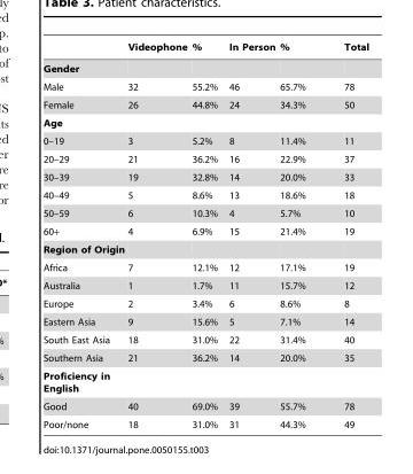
<table><thead><tr><td></td><td>Videophone</td><td>%</td><td>In Person</td><td>%</td><td>Total</td></tr></thead><tbody><tr><td colspan="6">Gender</td></tr><tr><td>Male</td><td>32</td><td>55.2%</td><td>46</td><td>65.7%</td><td>78</td></tr><tr><td>Female</td><td>26</td><td>44.8%</td><td>24</td><td>34.3%</td><td>50</td></tr><tr><td colspan="6">Age</td></tr><tr><td>0–19</td><td>3</td><td>5.2%</td><td>8</td><td>11.4%</td><td>11</td></tr><tr><td>20–29</td><td>21</td><td>36.2%</td><td>16</td><td>22.9%</td><td>37</td></tr><tr><td>30–39</td><td>19</td><td>32.8%</td><td>14</td><td>20.0%</td><td>33</td></tr><tr><td>40–49</td><td>5</td><td>8.6%</td><td>13</td><td>18.6%</td><td>18</td></tr><tr><td>50–59</td><td>6</td><td>10.3%</td><td>4</td><td>5.7%</td><td>10</td></tr><tr><td>60+</td><td>4</td><td>6.9%</td><td>15</td><td>21.4%</td><td>19</td></tr><tr><td colspan="6">Region of Origin</td></tr><tr><td>Africa</td><td>7</td><td>12.1%</td><td>12</td><td>17.1%</td><td>19</td></tr><tr><td>Australia</td><td>1</td><td>1.7%</td><td>11</td><td>15.7%</td><td>12</td></tr><tr><td>Europe</td><td>2</td><td>3.4%</td><td>6</td><td>8.6%</td><td>8</td></tr><tr><td>Eastern Asia</td><td>9</td><td>15.6%</td><td>5</td><td>7.1%</td><td>14</td></tr><tr><td>South East Asia</td><td>18</td><td>31.0%</td><td>22</td><td>31.4%</td><td>40</td></tr><tr><td>Southern Asia</td><td>21</td><td>36.2%</td><td>14</td><td>20.0%</td><td>35</td></tr><tr><td colspan="6">Proficiency in English</td></tr><tr><td>Good</td><td>40</td><td>69.0%</td><td>39</td><td>55.7%</td><td>78</td></tr><tr><td>Poor/none</td><td>18</td><td>31.0%</td><td>31</td><td>44.3%</td><td>49</td></tr></tbody></table>